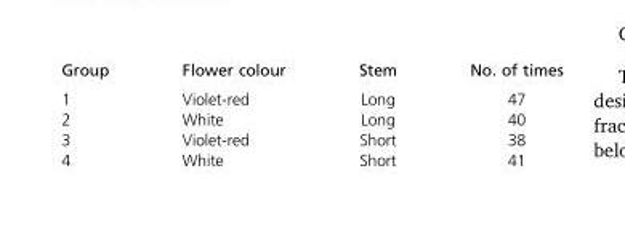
<table><thead><tr><td>Group</td><td>Flower colour</td><td>Stem</td><td>No. of times</td></tr></thead><tbody><tr><td>1</td><td>Violet-red</td><td>Long</td><td>47</td></tr><tr><td>2</td><td>White</td><td>Long</td><td>40</td></tr><tr><td>3</td><td>Violet-red</td><td>Short</td><td>38</td></tr><tr><td>4</td><td>White</td><td>Short</td><td>41</td></tr></tbody></table>